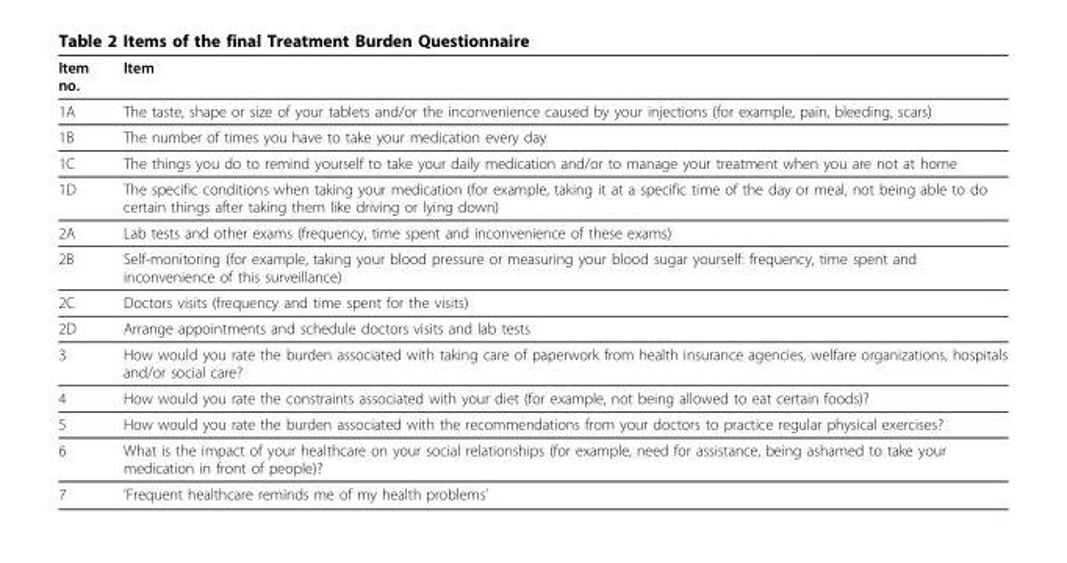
<table><thead><tr><td>Item no.</td><td>Item</td></tr></thead><tbody><tr><td>1A</td><td>The taste, shape or size of your tablets and/or the inconvenience caused by your injections (for example, pain, bleeding, scars)</td></tr><tr><td>1B</td><td>The number of times you have to take your medication every day</td></tr><tr><td>1C</td><td>The things you do to remind yourself to take your daily medication and/or to manage your treatment when you are not at home</td></tr><tr><td>1D</td><td>The specific conditions when taking your medication (for example, taking it at a specific time of the day or meal, not being able to do certain things after taking them like driving or lying down)</td></tr><tr><td>2A</td><td>Lab tests and other exams (frequency, time spent and inconvenience of these exams)</td></tr><tr><td>2B</td><td>Self-monitoring (for example, taking your blood pressure or measuring your blood sugar yourself: frequency, time spent and inconvenience of this surveillance)</td></tr><tr><td>2C</td><td>Doctors visits (frequency and time spent for the visits)</td></tr><tr><td>2D</td><td>Arrange appointments and schedule doctors visits and lab tests</td></tr><tr><td>3</td><td>How would you rate the burden associated with taking care of paperwork from health insurance agencies, welfare organizations, hospitals and/or social care?</td></tr><tr><td>4</td><td>How would you rate the constraints associated with your diet (for example, not being allowed to eat certain foods)?</td></tr><tr><td>5</td><td>How would you rate the burden associated with the recommendations from your doctors to practice regular physical exercises?</td></tr><tr><td>6</td><td>What is the impact of your healthcare on your social relationships (for example, need for assistance, being ashamed to take your medication in front of people)?</td></tr><tr><td>7</td><td>’Frequent healthcare reminds me of my health problems’</td></tr></tbody></table>